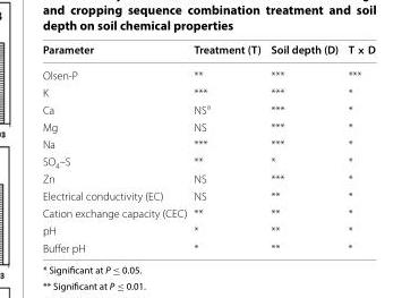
<table><thead><tr><td>Parameter</td><td>Treatment (T)</td><td>Soil depth (D)</td><td>T × D</td></tr></thead><tbody><tr><td>Olsen‑P</td><td>**</td><td>***</td><td>***</td></tr><tr><td>K</td><td>***</td><td>***</td><td>*</td></tr><tr><td>Ca</td><td>NS<sup>a</sup></td><td>***</td><td>*</td></tr><tr><td>Mg</td><td>NS</td><td>***</td><td>*</td></tr><tr><td>Na</td><td>***</td><td>***</td><td>*</td></tr><tr><td>SO<sub>4</sub>–S</td><td>**</td><td>*</td><td>*</td></tr><tr><td>Zn</td><td>NS</td><td>***</td><td>*</td></tr><tr><td>Electrical conductivity (EC)</td><td>NS</td><td>**</td><td>*</td></tr><tr><td>Cation exchange capacity (CEC)</td><td>**</td><td>**</td><td>*</td></tr><tr><td>pH</td><td>*</td><td>**</td><td>*</td></tr><tr><td>Buffer pH</td><td>*</td><td>**</td><td>*</td></tr></tbody></table>